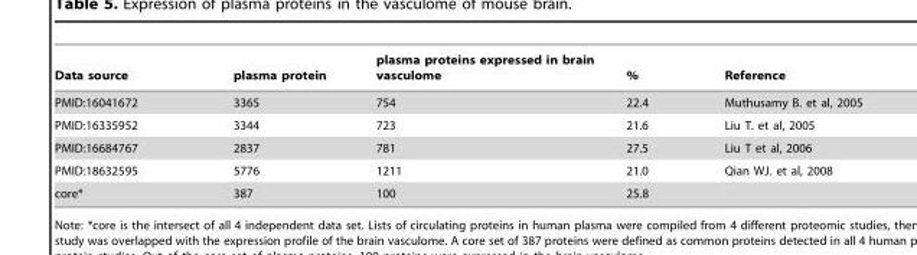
<table><thead><tr><td>Data source</td><td>plasma protein</td><td>plasma proteins expressed in brain vasculome</td><td>%</td><td>Reference</td></tr></thead><tbody><tr><td>PMID:16041672</td><td>3365</td><td>754</td><td>22.4</td><td>Muthusamy B. et al, 2005</td></tr><tr><td>PMID:16335952</td><td>3344</td><td>723</td><td>21.6</td><td>Liu T. et al, 2005</td></tr><tr><td>PMID:16684767</td><td>2837</td><td>781</td><td>27.5</td><td>Liu T et al, 2006</td></tr><tr><td>PMID:18632595</td><td>5776</td><td>1211</td><td>21.0</td><td>Qian WJ. et al, 2008</td></tr><tr><td>core*</td><td>387</td><td>100</td><td>25.8</td><td></td></tr></tbody></table>